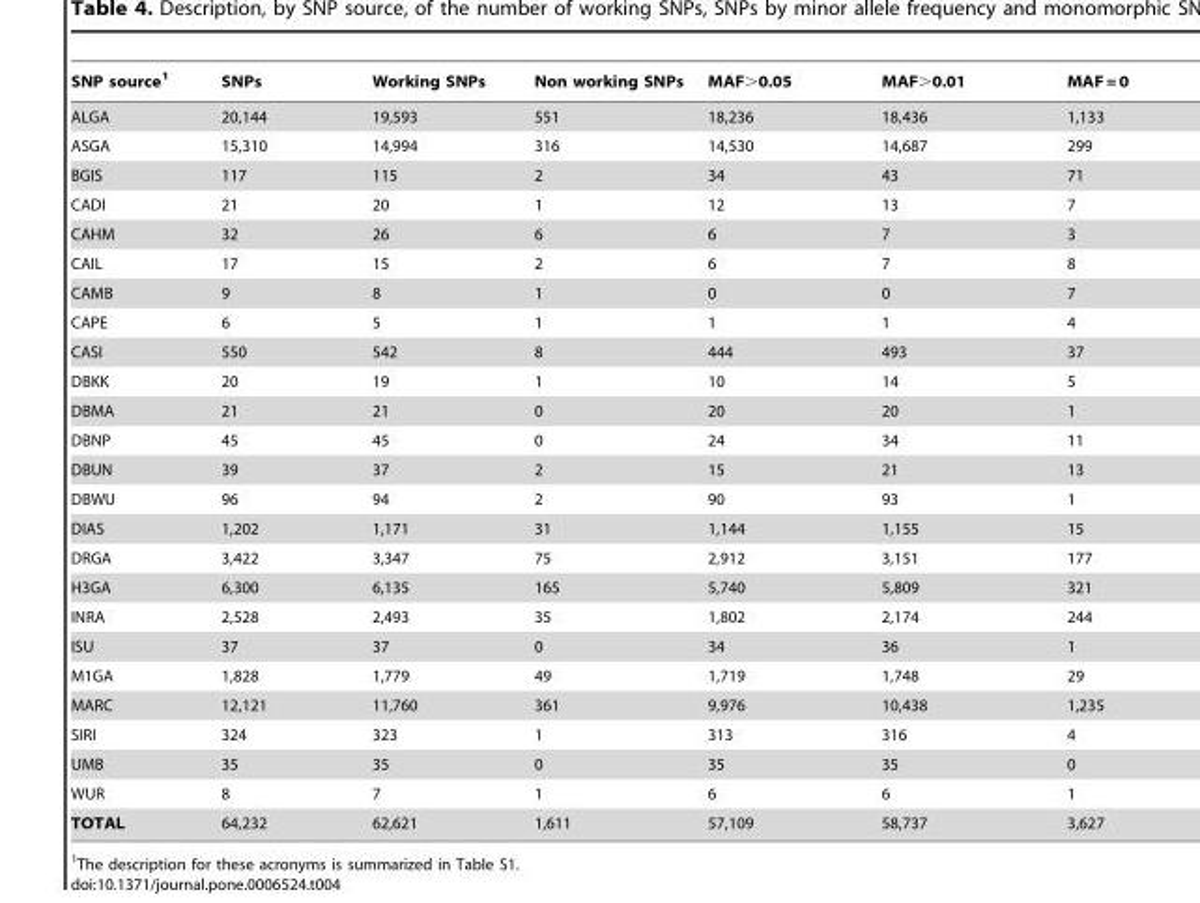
<table><thead><tr><td>SNP source<sup>1</sup></td><td>SNPs</td><td>Working SNPs</td><td>Non working SNPs</td><td>MAF&gt;0.05</td><td>MAF&gt;0.01</td><td>MAF = 0</td></tr></thead><tbody><tr><td>ALGA</td><td>20,144</td><td>19,593</td><td>551</td><td>18,236</td><td>18,436</td><td>1,133</td></tr><tr><td>ASGA</td><td>15,310</td><td>14,994</td><td>316</td><td>14,530</td><td>14,687</td><td>299</td></tr><tr><td>BGIS</td><td>117</td><td>115</td><td>2</td><td>34</td><td>43</td><td>71</td></tr><tr><td>CADI</td><td>21</td><td>20</td><td>1</td><td>12</td><td>13</td><td>7</td></tr><tr><td>CAHM</td><td>32</td><td>26</td><td>6</td><td>6</td><td>7</td><td>3</td></tr><tr><td>CAIL</td><td>17</td><td>15</td><td>2</td><td>6</td><td>7</td><td>8</td></tr><tr><td>CAMB</td><td>9</td><td>8</td><td>1</td><td>0</td><td>0</td><td>7</td></tr><tr><td>CAPE</td><td>6</td><td>5</td><td>1</td><td>1</td><td>1</td><td>4</td></tr><tr><td>CASI</td><td>550</td><td>542</td><td>8</td><td>444</td><td>493</td><td>37</td></tr><tr><td>DBKK</td><td>20</td><td>19</td><td>1</td><td>10</td><td>14</td><td>5</td></tr><tr><td>DBMA</td><td>21</td><td>21</td><td>0</td><td>20</td><td>20</td><td>1</td></tr><tr><td>DBNP</td><td>45</td><td>45</td><td>0</td><td>24</td><td>34</td><td>11</td></tr><tr><td>DBUN</td><td>39</td><td>37</td><td>2</td><td>15</td><td>21</td><td>13</td></tr><tr><td>DBWU</td><td>96</td><td>94</td><td>2</td><td>90</td><td>93</td><td>1</td></tr><tr><td>DIAS</td><td>1,202</td><td>1,171</td><td>31</td><td>1,144</td><td>1,155</td><td>15</td></tr><tr><td>DRGA</td><td>3,422</td><td>3,347</td><td>75</td><td>2,912</td><td>3,151</td><td>177</td></tr><tr><td>H3GA</td><td>6,300</td><td>6,135</td><td>165</td><td>5,740</td><td>5,809</td><td>321</td></tr><tr><td>INRA</td><td>2,528</td><td>2,493</td><td>35</td><td>1,802</td><td>2,174</td><td>244</td></tr><tr><td>ISU</td><td>37</td><td>37</td><td>0</td><td>34</td><td>36</td><td>1</td></tr><tr><td>M1GA</td><td>1,828</td><td>1,779</td><td>49</td><td>1,719</td><td>1,748</td><td>29</td></tr><tr><td>MARC</td><td>12,121</td><td>11,760</td><td>361</td><td>9,976</td><td>10,438</td><td>1,235</td></tr><tr><td>SIRI</td><td>324</td><td>323</td><td>1</td><td>313</td><td>316</td><td>4</td></tr><tr><td>UMB</td><td>35</td><td>35</td><td>0</td><td>35</td><td>35</td><td>0</td></tr><tr><td>WUR</td><td>8</td><td>7</td><td>1</td><td>6</td><td>6</td><td>1</td></tr><tr><td>TOTAL</td><td>64,232</td><td>62,621</td><td>1,611</td><td>57,109</td><td>58,737</td><td>3,627</td></tr></tbody></table>